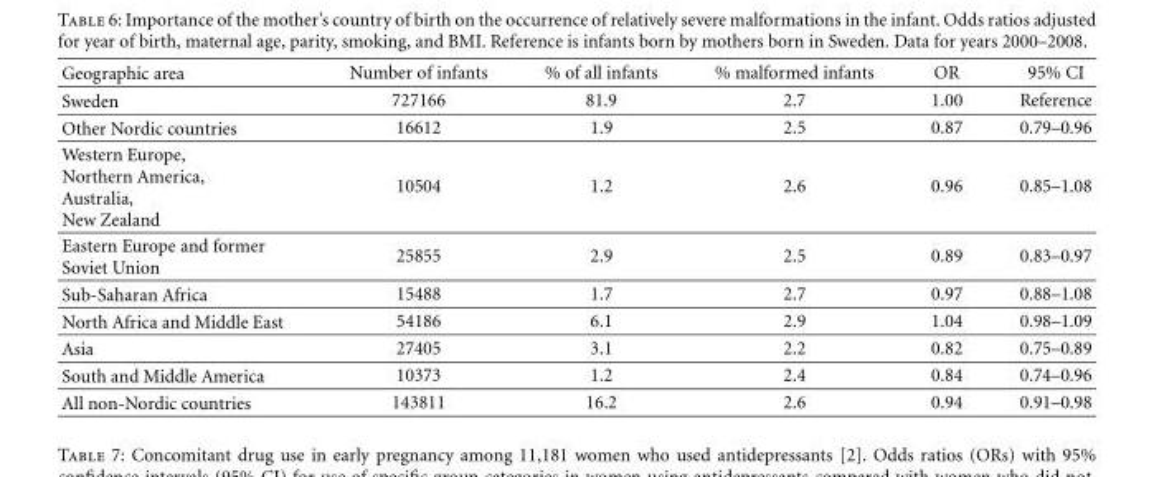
<table><thead><tr><td>Geographic area</td><td>Number of infants</td><td>% of all infants</td><td>% malformed infants</td><td>OR</td><td>95% CI</td></tr></thead><tbody><tr><td>Sweden</td><td>727166</td><td>81.9</td><td>2.7</td><td>1.00</td><td>Reference</td></tr><tr><td>Other Nordic countries</td><td>16612</td><td>1.9</td><td>2.5</td><td>0.87</td><td>0.79–0.96</td></tr><tr><td>Western Europe, Northern America, Australia, New Zealand</td><td>10504</td><td>1.2</td><td>2.6</td><td>0.96</td><td>0.85–1.08</td></tr><tr><td>Eastern Europe and former Soviet Union</td><td>25855</td><td>2.9</td><td>2.5</td><td>0.89</td><td>0.83–0.97</td></tr><tr><td>Sub-Saharan Africa</td><td>15488</td><td>1.7</td><td>2.7</td><td>0.97</td><td>0.88–1.08</td></tr><tr><td>North Africa and Middle East</td><td>54186</td><td>6.1</td><td>2.9</td><td>1.04</td><td>0.98–1.09</td></tr><tr><td>Asia</td><td>27405</td><td>3.1</td><td>2.2</td><td>0.82</td><td>0.75–0.89</td></tr><tr><td>South and Middle America</td><td>10373</td><td>1.2</td><td>2.4</td><td>0.84</td><td>0.74–0.96</td></tr><tr><td>All non-Nordic countries</td><td>143811</td><td>16.2</td><td>2.6</td><td>0.94</td><td>0.91–0.98</td></tr></tbody></table>